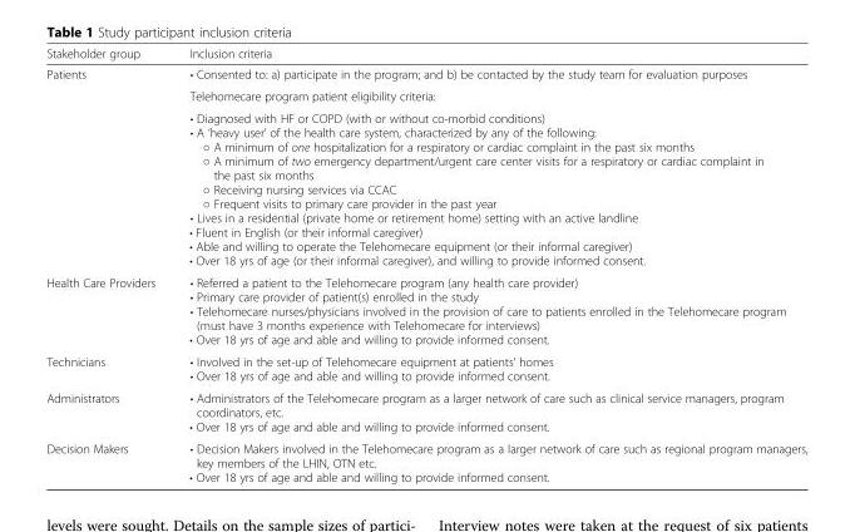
<table><thead><tr><td>Stakeholder group</td><td>Inclusion criteria</td></tr></thead><tbody><tr><td rowspan="3">Patients</td><td>• Consented to: a) participate in the program; and b) be contacted by the study team for evaluation purposes</td></tr><tr><td>Telehomecare program patient eligibility criteria:</td></tr><tr><td>• Diagnosed with HF or COPD (with or without co-morbid conditions) • A ‘heavy user’ of the health care system, characterized by any of the following: ○ A minimum of one hospitalization for a respiratory or cardiac complaint in the past six months ○ A minimum of two emergency department/urgent care center visits for a respiratory or cardiac complaint in the past six months ○ Receiving nursing services via CCAC ○ Frequent visits to primary care provider in the past year • Lives in a residential (private home or retirement home) setting with an active landline • Fluent in English (or their informal caregiver) • Able and willing to operate the Telehomecare equipment (or their informal caregiver) • Over 18 yrs of age (or their informal caregiver), and willing to provide informed consent.</td></tr><tr><td>Health Care Providers</td><td>• Referred a patient to the Telehomecare program (any health care provider) • Primary care provider of patient(s) enrolled in the study • Telehomecare nurses/physicians involved in the provision of care to patients enrolled in the Telehomecare program (must have 3 months experience with Telehomecare for interviews) • Over 18 yrs of age and able and willing to provide informed consent.</td></tr><tr><td>Technicians</td><td>• Involved in the set-up of Telehomecare equipment at patients’ homes • Over 18 yrs of age and able and willing to provide informed consent.</td></tr><tr><td>Administrators</td><td>• Administrators of the Telehomecare program as a larger network of care such as clinical service managers, program coordinators, etc. • Over 18 yrs of age and able and willing to provide informed consent.</td></tr><tr><td>Decision Makers</td><td>• Decision Makers involved in the Telehomecare program as a larger network of care such as regional program managers, key members of the LHIN, OTN etc. • Over 18 yrs of age and able and willing to provide informed consent.</td></tr></tbody></table>